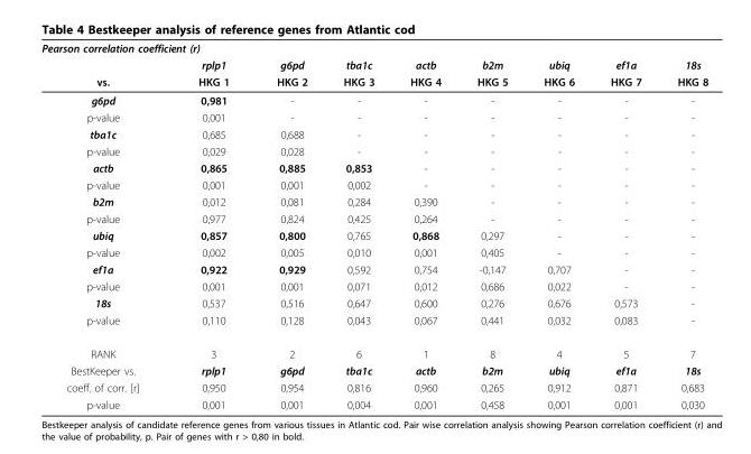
<table><thead><tr><td colspan="2">Pearson correlation coefficient (r)</td><td rowspan="3">g6pd HKG 2</td><td rowspan="3">tba1c HKG 3</td><td rowspan="3">actb HKG 4</td><td rowspan="3">b2m HKG 5</td><td rowspan="3">ubiq HKG 6</td><td rowspan="3">ef1a HKG 7</td><td rowspan="3">18s HKG 8</td></tr><tr><td rowspan="2">vs.</td><td rowspan="2">rplp1 HKG 1</td></tr><tr></tr></thead><tbody><tr><td>g6pd</td><td>0,981</td><td>-</td><td>-</td><td>-</td><td>-</td><td>-</td><td>-</td><td>-</td></tr><tr><td>p-value</td><td>0,001</td><td>-</td><td>-</td><td>-</td><td>-</td><td>-</td><td>-</td><td>-</td></tr><tr><td>tba1c</td><td>0,685</td><td>0,688</td><td>-</td><td>-</td><td>-</td><td>-</td><td>-</td><td>-</td></tr><tr><td>p-value</td><td>0,029</td><td>0,028</td><td>-</td><td>-</td><td>-</td><td>-</td><td>-</td><td>-</td></tr><tr><td>actb</td><td>0,865</td><td>0,885</td><td>0,853</td><td>-</td><td>-</td><td>-</td><td>-</td><td>-</td></tr><tr><td>p-value</td><td>0,001</td><td>0,001</td><td>0,002</td><td>-</td><td>-</td><td>-</td><td>-</td><td>-</td></tr><tr><td>b2m</td><td>0,012</td><td>0,081</td><td>0,284</td><td>0,390</td><td>-</td><td>-</td><td>-</td><td>-</td></tr><tr><td>p-value</td><td>0,977</td><td>0,824</td><td>0,425</td><td>0,264</td><td>-</td><td>-</td><td>-</td><td>-</td></tr><tr><td>ubiq</td><td>0,857</td><td>0,800</td><td>0,765</td><td>0,868</td><td>0,297</td><td>-</td><td>-</td><td>-</td></tr><tr><td>p-value</td><td>0,002</td><td>0,005</td><td>0,010</td><td>0,001</td><td>0,405</td><td>-</td><td>-</td><td>-</td></tr><tr><td>ef1a</td><td>0,922</td><td>0,929</td><td>0,592</td><td>0,754</td><td>-0,147</td><td>0,707</td><td>-</td><td>-</td></tr><tr><td>p-value</td><td>0,001</td><td>0,001</td><td>0,071</td><td>0,012</td><td>0,686</td><td>0,022</td><td>-</td><td>-</td></tr><tr><td>18s</td><td>0,537</td><td>0,516</td><td>0,647</td><td>0,600</td><td>0,276</td><td>0,676</td><td>0,573</td><td>-</td></tr><tr><td>p-value</td><td>0,110</td><td>0,128</td><td>0,043</td><td>0,067</td><td>0,441</td><td>0,032</td><td>0,083</td><td>-</td></tr><tr><td>RANK</td><td>3</td><td>2</td><td>6</td><td>1</td><td>8</td><td>4</td><td>5</td><td>7</td></tr><tr><td>BestKeeper vs.</td><td>rplp1</td><td>g6pd</td><td>tba1c</td><td>actb</td><td>b2m</td><td>ubiq</td><td>ef1a</td><td>18s</td></tr><tr><td>coeff. of corr. [r]</td><td>0,950</td><td>0,954</td><td>0,816</td><td>0,960</td><td>0,265</td><td>0,912</td><td>0,871</td><td>0,683</td></tr><tr><td>p-value</td><td>0,001</td><td>0,001</td><td>0,004</td><td>0,001</td><td>0,458</td><td>0,001</td><td>0,001</td><td>0,030</td></tr></tbody></table>